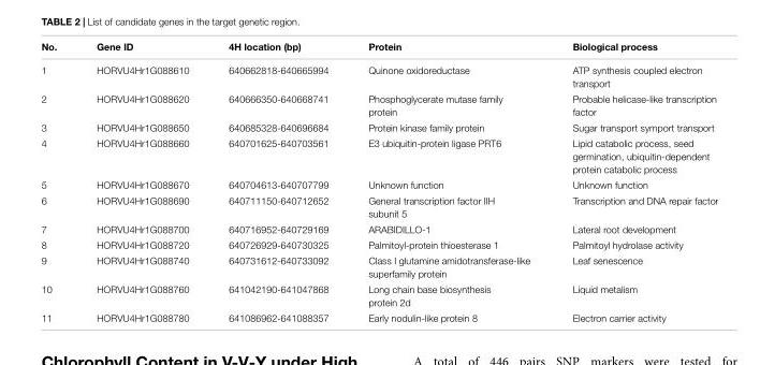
<table><thead><tr><td>No.</td><td>Gene ID</td><td>4H location (bp)</td><td>Protein</td><td>Biological process</td></tr></thead><tbody><tr><td>1</td><td>HORVU4Hr1G088610</td><td>640662818-640665994</td><td>Quinone oxidoreductase</td><td>ATP synthesis coupled electron transport</td></tr><tr><td>2</td><td>HORVU4Hr1G088620</td><td>640666350-640668741</td><td>Phosphoglycerate mutase family protein</td><td>Probable helicase-like transcription factor</td></tr><tr><td>3</td><td>HORVU4Hr1G088650</td><td>640685328-640696684</td><td>Protein kinase family protein</td><td>Sugar transport symport transport</td></tr><tr><td>4</td><td>HORVU4Hr1G088660</td><td>640701625-640703561</td><td>E3 ubiquitin-protein ligase PRT6</td><td>Lipid catabolic process, seed germination, ubiquitin-dependent protein catabolic process</td></tr><tr><td>5</td><td>HORVU4Hr1G088670</td><td>640704613-640707799</td><td>Unknown function</td><td>Unknown function</td></tr><tr><td>6</td><td>HORVU4Hr1G088690</td><td>640711150-640712652</td><td>General transcription factor IIH subunit 5</td><td>Transcription and DNA repair factor</td></tr><tr><td>7</td><td>HORVU4Hr1G088700</td><td>640716952-640729169</td><td>ARABIDILLO-1</td><td>Lateral root development</td></tr><tr><td>8</td><td>HORVU4Hr1G088720</td><td>640726929-640730325</td><td>Palmitoyl-protein thioesterase 1</td><td>Palmitoyl hydrolase activity</td></tr><tr><td>9</td><td>HORVU4Hr1G088740</td><td>640731612-640733092</td><td>Class I glutamine amidotransferase-like superfamily protein</td><td>Leaf senescence</td></tr><tr><td>10</td><td>HORVU4Hr1G088760</td><td>641042190-641047868</td><td>Long chain base biosynthesis protein 2d</td><td>Liquid metalism</td></tr><tr><td>11</td><td>HORVU4Hr1G088780</td><td>641086962-641088357</td><td>Early nodulin-like protein 8</td><td>Electron carrier activity</td></tr></tbody></table>